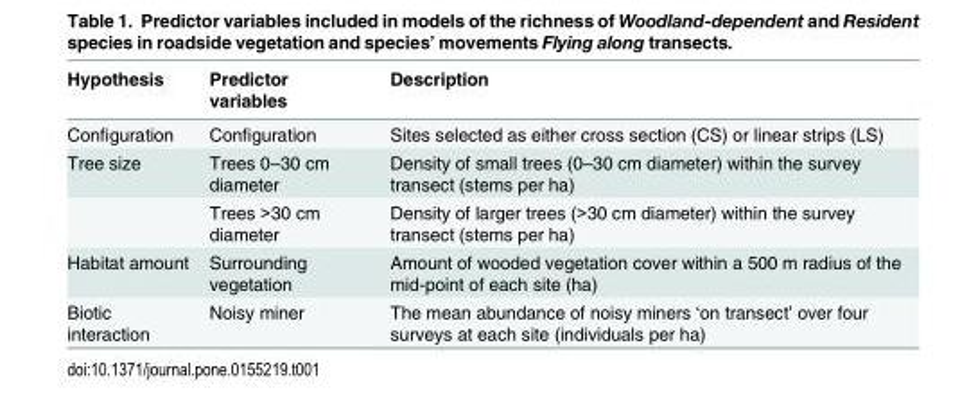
<table><thead><tr><td>Hypothesis</td><td>Predictor variables</td><td>Description</td></tr></thead><tbody><tr><td>Configuration</td><td>Configuration</td><td>Sites selected as either cross section (CS) or linear strips (LS)</td></tr><tr><td rowspan="2">Tree size</td><td>Trees 0–30 cm diameter</td><td>Density of small trees (0–30 cm diameter) within the survey transect (stems per ha)</td></tr><tr><td>Trees &gt;30 cm diameter</td><td>Density of larger trees (&gt;30 cm diameter) within the survey transect (stems per ha)</td></tr><tr><td>Habitat amount</td><td>Surrounding vegetation</td><td>Amount of wooded vegetation cover within a 500 m radius of the mid-point of each site (ha)</td></tr><tr><td>Biotic interaction</td><td>Noisy miner</td><td>The mean abundance of noisy miners ‘on transect’ over four surveys at each site (individuals per ha)</td></tr></tbody></table>